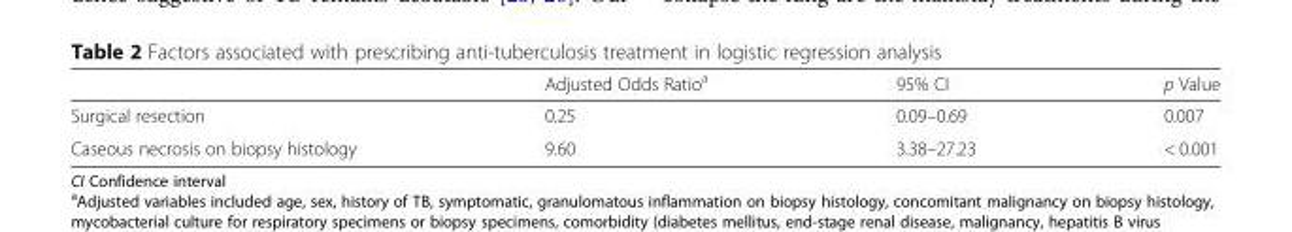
<table><thead><tr><td></td><td>Adjusted Odds Ratio<sup>a</sup></td><td>95% CI</td><td>p Value</td></tr></thead><tbody><tr><td>Surgical resection</td><td>0.25</td><td>0.09–0.69</td><td>0.007</td></tr><tr><td>Caseous necrosis on biopsy histology</td><td>9.60</td><td>3.38–27.23</td><td>&lt; 0.001</td></tr></tbody></table>